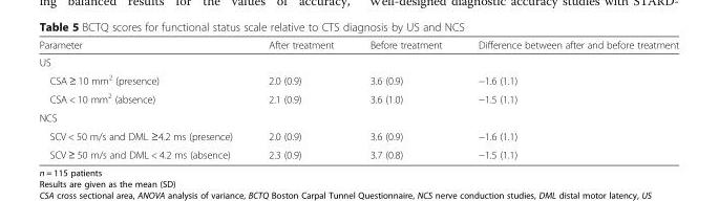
<table><thead><tr><td>Parameter</td><td>After treatment</td><td>Before treatment</td><td>Difference between after and before treatment</td></tr></thead><tbody><tr><td colspan="4">US</td></tr><tr><td>CSA ≥ 10 mm<sup>2</sup> (presence)</td><td>2.0 (0.9)</td><td>3.6 (0.9)</td><td>−1.6 (1.1)</td></tr><tr><td>CSA &lt; 10 mm<sup>2</sup> (absence)</td><td>2.1 (0.9)</td><td>3.6 (1.0)</td><td>−1.5 (1.1)</td></tr><tr><td colspan="4">NCS</td></tr><tr><td>SCV &lt; 50 m/s and DML ≥4.2 ms (presence)</td><td>2.0 (0.9)</td><td>3.6 (0.9)</td><td>−1.6 (1.1)</td></tr><tr><td>SCV ≥ 50 m/s and DML &lt; 4.2 ms (absence)</td><td>2.3 (0.9)</td><td>3.7 (0.8)</td><td>−1.5 (1.1)</td></tr></tbody></table>